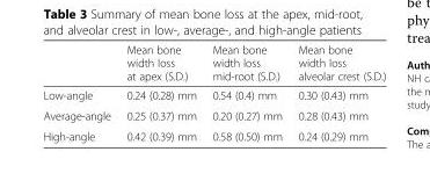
<table><thead><tr><td></td><td>Mean bone width loss at apex (S.D.)</td><td>Mean bone width loss mid-root (S.D.)</td><td>Mean bone width loss alveolar crest (S.D.)</td></tr></thead><tbody><tr><td>Low-angle</td><td>0.24 (0.28) mm</td><td>0.54 (0.4) mm</td><td>0.30 (0.43) mm</td></tr><tr><td>Average-angle</td><td>0.25 (0.37) mm</td><td>0.20 (0.27) mm</td><td>0.28 (0.43) mm</td></tr><tr><td>High-angle</td><td>0.42 (0.39) mm</td><td>0.58 (0.50) mm</td><td>0.24 (0.29) mm</td></tr></tbody></table>